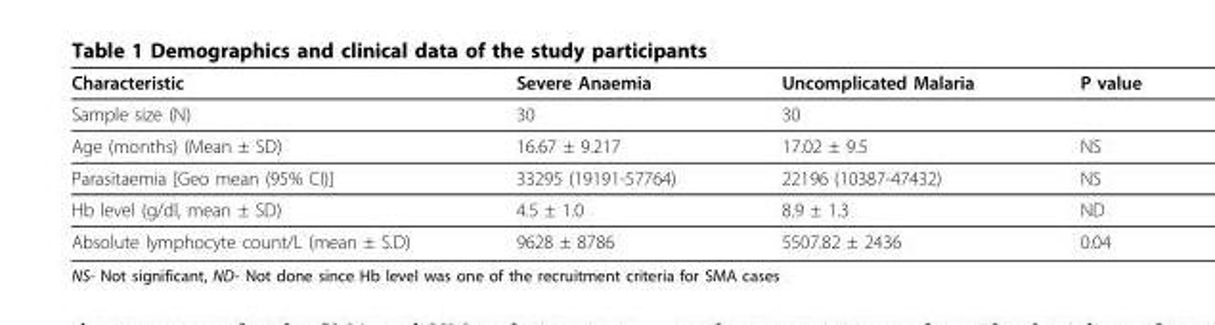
<table><thead><tr><td>Characteristic</td><td>Severe Anaemia</td><td>Uncomplicated Malaria</td><td>P value</td></tr></thead><tbody><tr><td>Sample size (N)</td><td>30</td><td>30</td><td></td></tr><tr><td>Age (months) (Mean ± SD)</td><td>16.67 ± 9.217</td><td>17.02 ± 9.5</td><td>NS</td></tr><tr><td>Parasitaemia [Geo mean (95% CI)]</td><td>33295 (19191-57764)</td><td>22196 (10387-47432)</td><td>NS</td></tr><tr><td>Hb level (g/dl, mean ± SD)</td><td>4.5 ± 1.0</td><td>8.9 ± 1.3</td><td>ND</td></tr><tr><td>Absolute lymphocyte count/L (mean ± S.D)</td><td>9628 ± 8786</td><td>5507.82 ± 2436</td><td>0.04</td></tr></tbody></table>